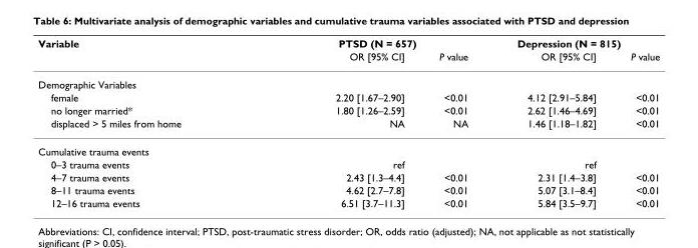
<table><thead><tr><td rowspan="2">Variable</td><td colspan="2">PTSD (N = 657)</td><td colspan="2">Depression (N = 815)</td></tr><tr><td>OR [95% CI]</td><td>P value</td><td>OR [95% CI]</td><td>P value</td></tr></thead><tbody><tr><td colspan="5">Demographic Variables</td></tr><tr><td>female</td><td>2.20 [1.67–2.90]</td><td>&lt;0.01</td><td>4.12 [2.91–5.84]</td><td>&lt;0.01</td></tr><tr><td>no longer married*</td><td>1.80 [1.26–2.59]</td><td>&lt;0.01</td><td>2.62 [1.46–4.69]</td><td>&lt;0.01</td></tr><tr><td>displaced &gt; 5 miles from home</td><td>NA</td><td>NA</td><td>1.46 [1.18–1.82]</td><td>&lt;0.01</td></tr><tr><td colspan="5">Cumulative trauma events</td></tr><tr><td>0–3 trauma events</td><td>ref</td><td></td><td>ref</td><td></td></tr><tr><td>4–7 trauma events</td><td>2.43 [1.3–4.4]</td><td>&lt;0.01</td><td>2.31 [1.4–3.8]</td><td>&lt;0.01</td></tr><tr><td>8–11 trauma events</td><td>4.62 [2.7–7.8]</td><td>&lt;0.01</td><td>5.07 [3.1–8.4]</td><td>&lt;0.01</td></tr><tr><td>12–16 trauma events</td><td>6.51 [3.7–11.3]</td><td>&lt;0.01</td><td>5.84 [3.5–9.7]</td><td>&lt;0.01</td></tr></tbody></table>